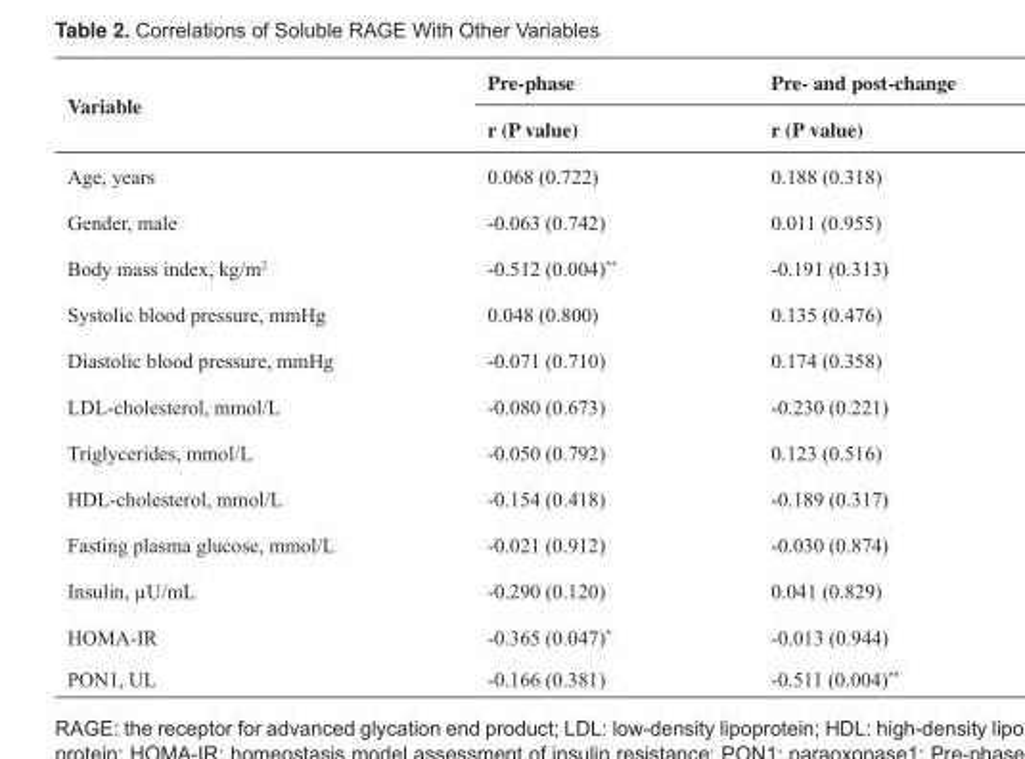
<table><thead><tr><td rowspan="2">Variable</td><td rowspan="2">Pre-phase r (P value)</td><td rowspan="2">Pre- and post-change r (P value)</td></tr><tr></tr></thead><tbody><tr><td>Age, years</td><td>0.068 (0.722)</td><td>0.188 (0.318)</td></tr><tr><td>Gender, male</td><td>-0.063 (0.742)</td><td>0.011 (0.955)</td></tr><tr><td>Body mass index, kg/m<sup>2</sup></td><td>-0.512 (0.004)**</td><td>-0.191 (0.313)</td></tr><tr><td>Systolic blood pressure, mmHg</td><td>0.048 (0.800)</td><td>0.135 (0.476)</td></tr><tr><td>Diastolic blood pressure, mmHg</td><td>-0.071 (0.710)</td><td>0.174 (0.358)</td></tr><tr><td>LDL-cholesterol, mmol/L</td><td>-0.080 (0.673)</td><td>-0.230 (0.221)</td></tr><tr><td>Triglycerides, mmol/L</td><td>-0.050 (0.792)</td><td>0.123 (0.516)</td></tr><tr><td>HDL-cholesterol, mmol/L</td><td>-0.154 (0.418)</td><td>-0.189 (0.317)</td></tr><tr><td>Fasting plasma glucose, mmol/L</td><td>-0.021 (0.912)</td><td>-0.030 (0.874)</td></tr><tr><td>Insulin, μU/mL</td><td>-0.290 (0.120)</td><td>0.041 (0.829)</td></tr><tr><td>HOMA-IR</td><td>-0.365 (0.047)*</td><td>-0.013 (0.944)</td></tr><tr><td>PON1, UL</td><td>-0.166 (0.381)</td><td>-0.511 (0.004)**</td></tr></tbody></table>